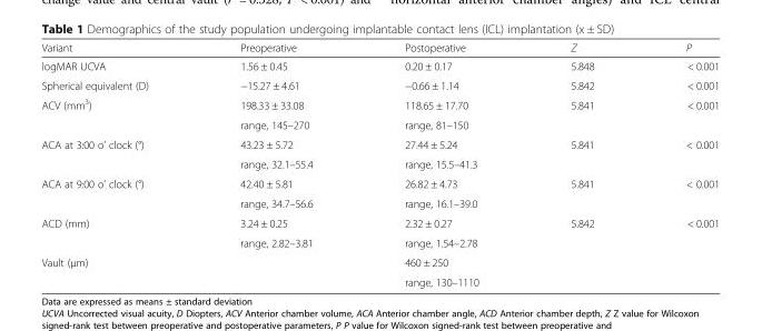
<table><thead><tr><td>Variant</td><td>Preoperative</td><td>Postoperative</td><td>Z</td><td>P</td></tr></thead><tbody><tr><td>logMAR UCVA</td><td>1.56 ± 0.45</td><td>0.20 ± 0.17</td><td>5.848</td><td>&lt; 0.001</td></tr><tr><td>Spherical equivalent (D)</td><td>−15.27 ± 4.61</td><td>−0.66 ± 1.14</td><td>5.842</td><td>&lt; 0.001</td></tr><tr><td rowspan="2">ACV (mm<sup>3</sup>)</td><td>198.33 ± 33.08</td><td>118.65 ± 17.70</td><td>5.841</td><td>&lt; 0.001</td></tr><tr><td>range, 145–270</td><td>range, 81–150</td><td></td><td></td></tr><tr><td rowspan="2">ACA at 3:00 o’ clock (°)</td><td>43.23 ± 5.72</td><td>27.44 ± 5.24</td><td>5.841</td><td>&lt; 0.001</td></tr><tr><td>range, 32.1–55.4</td><td>range, 15.5–41.3</td><td></td><td></td></tr><tr><td rowspan="2">ACA at 9:00 o’ clock (°)</td><td>42.40 ± 5.81</td><td>26.82 ± 4.73</td><td>5.841</td><td>&lt; 0.001</td></tr><tr><td>range, 34.7–56.6</td><td>range, 16.1–39.0</td><td></td><td></td></tr><tr><td rowspan="2">ACD (mm)</td><td>3.24 ± 0.25</td><td>2.32 ± 0.27</td><td>5.842</td><td>&lt; 0.001</td></tr><tr><td>range, 2.82–3.81</td><td>range, 1.54–2.78</td><td></td><td></td></tr><tr><td rowspan="2">Vault (μm)</td><td></td><td>460 ± 250</td><td></td><td></td></tr><tr><td></td><td>range, 130–1110</td><td></td><td></td></tr></tbody></table>